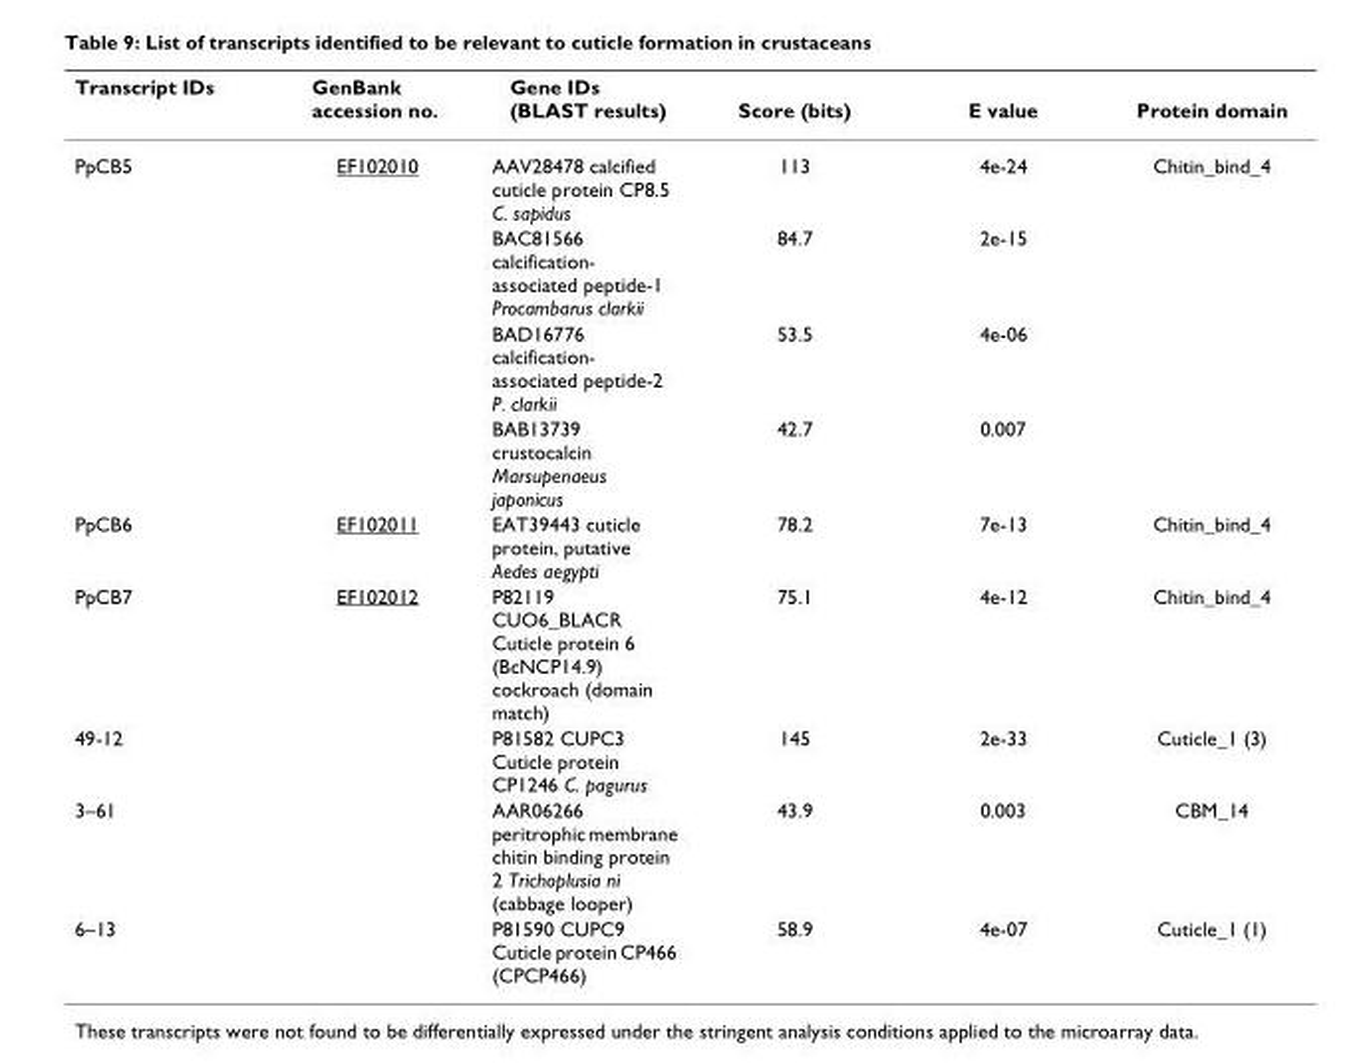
<table><thead><tr><td>Transcript IDs</td><td>GenBank accession no.</td><td>Gene IDs (BLAST results)</td><td>Score (bits)</td><td>E value</td><td>Protein domain</td></tr></thead><tbody><tr><td rowspan="4">PpCB5</td><td>EF102010</td><td>AAV28478 calcified cuticle protein CP8.5 C. sapidus</td><td>113</td><td>4e-24</td><td>Chitin_bind_4</td></tr><tr><td></td><td>BAC81566 calcification- associated peptide-1 Procambarus clarkii</td><td>84.7</td><td>2e-15</td><td></td></tr><tr><td></td><td>BAD16776 calcification- associated peptide-2 P. clarkii</td><td>53.5</td><td>4e-06</td><td></td></tr><tr><td></td><td>BAB13739 crustocalcin Marsupenaeus japonicus</td><td>42.7</td><td>0.007</td><td></td></tr><tr><td>PpCB6</td><td>EF102011</td><td>EAT39443 cuticle protein, putative Aedes aegypti</td><td>78.2</td><td>7e-13</td><td>Chitin_bind_4</td></tr><tr><td>PpCB7</td><td>EF102012</td><td>P82119 CUO6_BLACR Cuticle protein 6 (BcNCP14.9) cockroach (domain match)</td><td>75.1</td><td>4e-12</td><td>Chitin_bind_4</td></tr><tr><td>49-12</td><td></td><td>P81582 CUPC3 Cuticle protein CP1246 C. pagurus</td><td>145</td><td>2e-33</td><td>Cuticle_1 (3)</td></tr><tr><td>3–61</td><td></td><td>AAR06266 peritrophic membrane chitin binding protein 2 Trichoplusia ni (cabbage looper)</td><td>43.9</td><td>0.003</td><td>CBM_14</td></tr><tr><td>6–13</td><td></td><td>P81590 CUPC9 Cuticle protein CP466 (CPCP466)</td><td>58.9</td><td>4e-07</td><td>Cuticle_1 (1)</td></tr></tbody></table>